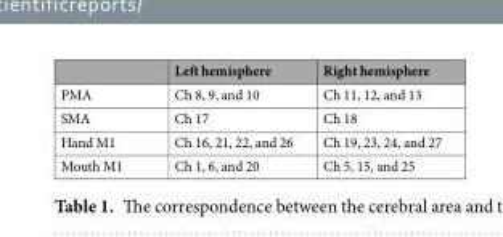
<table><thead><tr><td></td><td>Left hemisphere</td><td>Right hemisphere</td></tr></thead><tbody><tr><td>PMA</td><td>Ch 8, 9, and 10</td><td>Ch 11, 12, and 13</td></tr><tr><td>SMA</td><td>Ch 17</td><td>Ch 18</td></tr><tr><td>Hand M1</td><td>Ch 16, 21, 22, and 26</td><td>Ch 19, 23, 24, and 27</td></tr><tr><td>Mouth M1</td><td>Ch 1, 6, and 20</td><td>Ch 5, 15, and 25</td></tr></tbody></table>